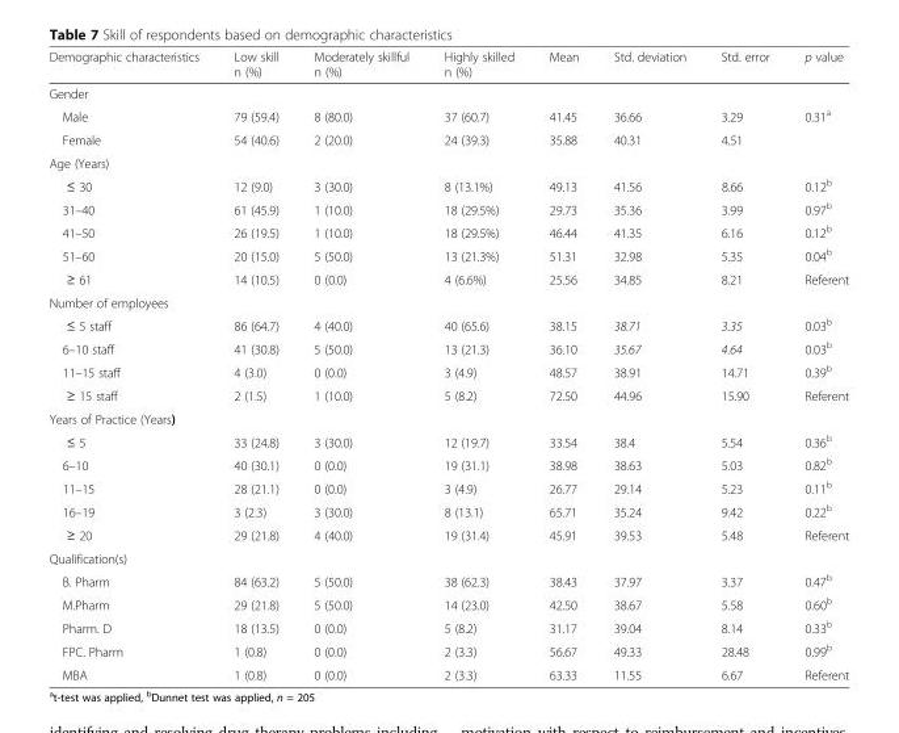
<table><thead><tr><td>Demographic characteristics</td><td>Low skill n (%)</td><td>Moderately skillful n (%)</td><td>Highly skilled n (%)</td><td>Mean</td><td>Std. deviation</td><td>Std. error</td><td>p value</td></tr></thead><tbody><tr><td colspan="8">Gender</td></tr><tr><td>Male</td><td>79 (59.4)</td><td>8 (80.0)</td><td>37 (60.7)</td><td>41.45</td><td>36.66</td><td>3.29</td><td>0.31<sup>a</sup></td></tr><tr><td>Female</td><td>54 (40.6)</td><td>2 (20.0)</td><td>24 (39.3)</td><td>35.88</td><td>40.31</td><td>4.51</td><td></td></tr><tr><td colspan="8">Age (Years)</td></tr><tr><td>≤ 30</td><td>12 (9.0)</td><td>3 (30.0)</td><td>8 (13.1%)</td><td>49.13</td><td>41.56</td><td>8.66</td><td>0.12<sup>b</sup></td></tr><tr><td>31–40</td><td>61 (45.9)</td><td>1 (10.0)</td><td>18 (29.5%)</td><td>29.73</td><td>35.36</td><td>3.99</td><td>0.97<sup>b</sup></td></tr><tr><td>41–50</td><td>26 (19.5)</td><td>1 (10.0)</td><td>18 (29.5%)</td><td>46.44</td><td>41.35</td><td>6.16</td><td>0.12<sup>b</sup></td></tr><tr><td>51–60</td><td>20 (15.0)</td><td>5 (50.0)</td><td>13 (21.3%)</td><td>51.31</td><td>32.98</td><td>5.35</td><td>0.04<sup>b</sup></td></tr><tr><td>≥ 61</td><td>14 (10.5)</td><td>0 (0.0)</td><td>4 (6.6%)</td><td>25.56</td><td>34.85</td><td>8.21</td><td>Referent</td></tr><tr><td colspan="8">Number of employees</td></tr><tr><td>≤ 5 staff</td><td>86 (64.7)</td><td>4 (40.0)</td><td>40 (65.6)</td><td>38.15</td><td>38.71</td><td>3.35</td><td>0.03<sup>b</sup></td></tr><tr><td>6–10 staff</td><td>41 (30.8)</td><td>5 (50.0)</td><td>13 (21.3)</td><td>36.10</td><td>35.67</td><td>4.64</td><td>0.03<sup>b</sup></td></tr><tr><td>11–15 staff</td><td>4 (3.0)</td><td>0 (0.0)</td><td>3 (4.9)</td><td>48.57</td><td>38.91</td><td>14.71</td><td>0.39<sup>b</sup></td></tr><tr><td>≥ 15 staff</td><td>2 (1.5)</td><td>1 (10.0)</td><td>5 (8.2)</td><td>72.50</td><td>44.96</td><td>15.90</td><td>Referent</td></tr><tr><td colspan="8">Years of Practice (Years)</td></tr><tr><td>≤ 5</td><td>33 (24.8)</td><td>3 (30.0)</td><td>12 (19.7)</td><td>33.54</td><td>38.4</td><td>5.54</td><td>0.36<sup>b</sup></td></tr><tr><td>6–10</td><td>40 (30.1)</td><td>0 (0.0)</td><td>19 (31.1)</td><td>38.98</td><td>38.63</td><td>5.03</td><td>0.82<sup>b</sup></td></tr><tr><td>11–15</td><td>28 (21.1)</td><td>0 (0.0)</td><td>3 (4.9)</td><td>26.77</td><td>29.14</td><td>5.23</td><td>0.11<sup>b</sup></td></tr><tr><td>16–19</td><td>3 (2.3)</td><td>3 (30.0)</td><td>8 (13.1)</td><td>65.71</td><td>35.24</td><td>9.42</td><td>0.22<sup>b</sup></td></tr><tr><td>≥ 20</td><td>29 (21.8)</td><td>4 (40.0)</td><td>19 (31.4)</td><td>45.91</td><td>39.53</td><td>5.48</td><td>Referent</td></tr><tr><td colspan="8">Qualification(s)</td></tr><tr><td>B. Pharm</td><td>84 (63.2)</td><td>5 (50.0)</td><td>38 (62.3)</td><td>38.43</td><td>37.97</td><td>3.37</td><td>0.47<sup>b</sup></td></tr><tr><td>M.Pharm</td><td>29 (21.8)</td><td>5 (50.0)</td><td>14 (23.0)</td><td>42.50</td><td>38.67</td><td>5.58</td><td>0.60<sup>b</sup></td></tr><tr><td>Pharm. D</td><td>18 (13.5)</td><td>0 (0.0)</td><td>5 (8.2)</td><td>31.17</td><td>39.04</td><td>8.14</td><td>0.33<sup>b</sup></td></tr><tr><td>FPC. Pharm</td><td>1 (0.8)</td><td>0 (0.0)</td><td>2 (3.3)</td><td>56.67</td><td>49.33</td><td>28.48</td><td>0.99<sup>b</sup></td></tr><tr><td>MBA</td><td>1 (0.8)</td><td>0 (0.0)</td><td>2 (3.3)</td><td>63.33</td><td>11.55</td><td>6.67</td><td>Referent</td></tr></tbody></table>